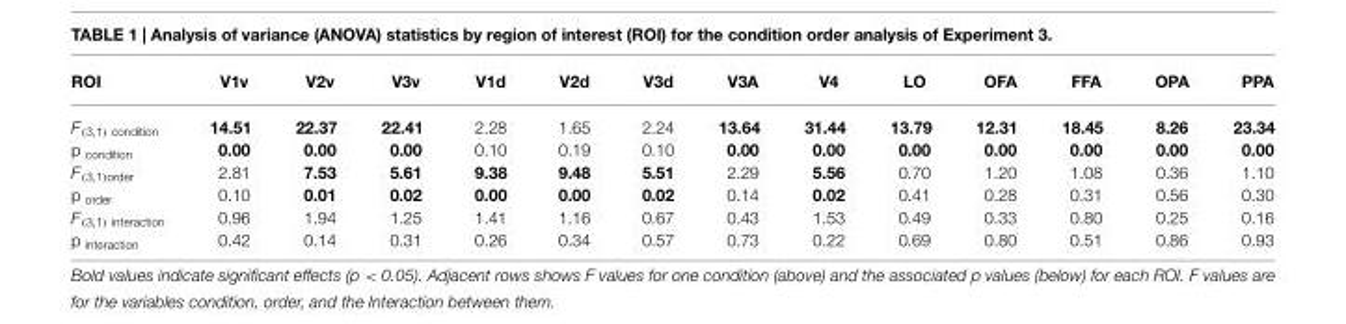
<table><thead><tr><td>ROI</td><td>V1v</td><td>V2v</td><td>V3v</td><td>V1d</td><td>V2d</td><td>V3d</td><td>V3A</td><td>V4</td><td>LO</td><td>OFA</td><td>FFA</td><td>OPA</td><td>PPA</td></tr></thead><tbody><tr><td>F<sub>(3,1) condition</sub></td><td>14.51</td><td>22.37</td><td>22.41</td><td>2.28</td><td>1.65</td><td>2.24</td><td>13.64</td><td>31.44</td><td>13.79</td><td>12.31</td><td>18.45</td><td>8.26</td><td>23.34</td></tr><tr><td>p <sub>condition</sub></td><td>0.00</td><td>0.00</td><td>0.00</td><td>0.10</td><td>0.19</td><td>0.10</td><td>0.00</td><td>0.00</td><td>0.00</td><td>0.00</td><td>0.00</td><td>0.00</td><td>0.00</td></tr><tr><td>F<sub>(3,1)order</sub></td><td>2.81</td><td>7.53</td><td>5.61</td><td>9.38</td><td>9.48</td><td>5.51</td><td>2.29</td><td>5.56</td><td>0.70</td><td>1.20</td><td>1.08</td><td>0.36</td><td>1.10</td></tr><tr><td>p <sub>order</sub></td><td>0.10</td><td>0.01</td><td>0.02</td><td>0.00</td><td>0.00</td><td>0.02</td><td>0.14</td><td>0.02</td><td>0.41</td><td>0.28</td><td>0.31</td><td>0.56</td><td>0.30</td></tr><tr><td>F<sub>(3,1) interaction</sub></td><td>0.96</td><td>1.94</td><td>1.25</td><td>1.41</td><td>1.16</td><td>0.67</td><td>0.43</td><td>1.53</td><td>0.49</td><td>0.33</td><td>0.80</td><td>0.25</td><td>0.16</td></tr><tr><td>p <sub>interaction</sub></td><td>0.42</td><td>0.14</td><td>0.31</td><td>0.26</td><td>0.34</td><td>0.57</td><td>0.73</td><td>0.22</td><td>0.69</td><td>0.80</td><td>0.51</td><td>0.86</td><td>0.93</td></tr></tbody></table>